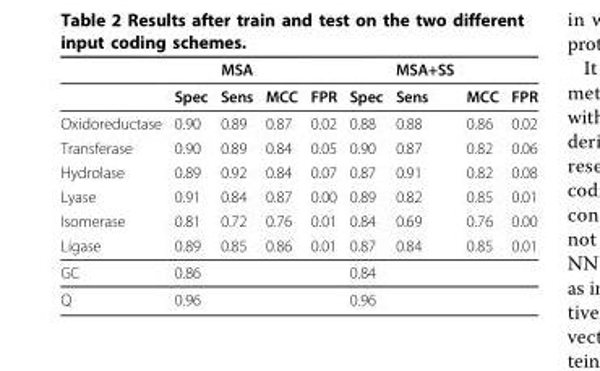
<table><thead><tr><td></td><td></td><td>MSA</td><td></td><td></td><td></td><td>MSA+SS</td><td></td><td></td></tr></thead><tbody><tr><td></td><td>Spec</td><td>Sens</td><td>MCC</td><td>FPR</td><td>Spec</td><td>Sens</td><td>MCC</td><td>FPR</td></tr><tr><td>Oxidoreductase</td><td>0.90</td><td>0.89</td><td>0.87</td><td>0.02</td><td>0.88</td><td>0.88</td><td>0.86</td><td>0.02</td></tr><tr><td>Transferase</td><td>0.90</td><td>0.89</td><td>0.84</td><td>0.05</td><td>0.90</td><td>0.87</td><td>0.82</td><td>0.06</td></tr><tr><td>Hydrolase</td><td>0.89</td><td>0.92</td><td>0.84</td><td>0.07</td><td>0.87</td><td>0.91</td><td>0.82</td><td>0.08</td></tr><tr><td>Lyase</td><td>0.91</td><td>0.84</td><td>0.87</td><td>0.00</td><td>0.89</td><td>0.82</td><td>0.85</td><td>0.01</td></tr><tr><td>Isomerase</td><td>0.81</td><td>0.72</td><td>0.76</td><td>0.01</td><td>0.84</td><td>0.69</td><td>0.76</td><td>0.00</td></tr><tr><td>Ligase</td><td>0.89</td><td>0.85</td><td>0.86</td><td>0.01</td><td>0.87</td><td>0.84</td><td>0.85</td><td>0.01</td></tr><tr><td>GC</td><td>0.86</td><td></td><td></td><td></td><td>0.84</td><td></td><td></td><td></td></tr><tr><td>Q</td><td>0.96</td><td></td><td></td><td></td><td>0.96</td><td></td><td></td><td></td></tr></tbody></table>